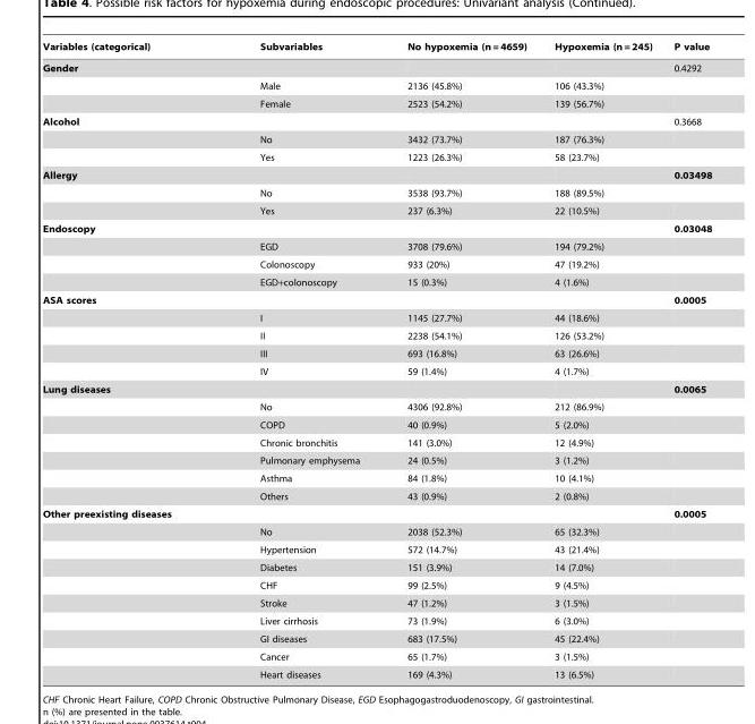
<table><thead><tr><td>Variables (categorical)</td><td>Subvariables</td><td>No hypoxemia (n = 4659)</td><td>Hypoxemia (n = 245)</td><td>P value</td></tr></thead><tbody><tr><td rowspan="3">Gender</td><td></td><td></td><td></td><td>0.4292</td></tr><tr><td>Male</td><td>2136 (45.8%)</td><td>106 (43.3%)</td><td></td></tr><tr><td>Female</td><td>2523 (54.2%)</td><td>139 (56.7%)</td><td></td></tr><tr><td rowspan="3">Alcohol</td><td></td><td></td><td></td><td>0.3668</td></tr><tr><td>No</td><td>3432 (73.7%)</td><td>187 (76.3%)</td><td></td></tr><tr><td>Yes</td><td>1223 (26.3%)</td><td>58 (23.7%)</td><td></td></tr><tr><td rowspan="3">Allergy</td><td></td><td></td><td></td><td>0.03498</td></tr><tr><td>No</td><td>3538 (93.7%)</td><td>188 (89.5%)</td><td></td></tr><tr><td>Yes</td><td>237 (6.3%)</td><td>22 (10.5%)</td><td></td></tr><tr><td rowspan="4">Endoscopy</td><td></td><td></td><td></td><td>0.03048</td></tr><tr><td>EGD</td><td>3708 (79.6%)</td><td>194 (79.2%)</td><td></td></tr><tr><td>Colonoscopy</td><td>933 (20%)</td><td>47 (19.2%)</td><td></td></tr><tr><td>EGD+colonoscopy</td><td>15 (0.3%)</td><td>4 (1.6%)</td><td></td></tr><tr><td rowspan="5">ASA scores</td><td></td><td></td><td></td><td>0.0005</td></tr><tr><td>I</td><td>1145 (27.7%)</td><td>44 (18.6%)</td><td></td></tr><tr><td>II</td><td>2238 (54.1%)</td><td>126 (53.2%)</td><td></td></tr><tr><td>III</td><td>693 (16.8%)</td><td>63 (26.6%)</td><td></td></tr><tr><td>IV</td><td>59 (1.4%)</td><td>4 (1.7%)</td><td></td></tr><tr><td rowspan="7">Lung diseases</td><td></td><td></td><td></td><td>0.0065</td></tr><tr><td>No</td><td>4306 (92.8%)</td><td>212 (86.9%)</td><td></td></tr><tr><td>COPD</td><td>40 (0.9%)</td><td>5 (2.0%)</td><td></td></tr><tr><td>Chronic bronchitis</td><td>141 (3.0%)</td><td>12 (4.9%)</td><td></td></tr><tr><td>Pulmonary emphysema</td><td>24 (0.5%)</td><td>3 (1.2%)</td><td></td></tr><tr><td>Asthma</td><td>84 (1.8%)</td><td>10 (4.1%)</td><td></td></tr><tr><td>Others</td><td>43 (0.9%)</td><td>2 (0.8%)</td><td></td></tr><tr><td rowspan="10">Other preexisting diseases</td><td></td><td></td><td></td><td>0.0005</td></tr><tr><td>No</td><td>2038 (52.3%)</td><td>65 (32.3%)</td><td></td></tr><tr><td>Hypertension</td><td>572 (14.7%)</td><td>43 (21.4%)</td><td></td></tr><tr><td>Diabetes</td><td>151 (3.9%)</td><td>14 (7.0%)</td><td></td></tr><tr><td>CHF</td><td>99 (2.5%)</td><td>9 (4.5%)</td><td></td></tr><tr><td>Stroke</td><td>47 (1.2%)</td><td>3 (1.5%)</td><td></td></tr><tr><td>Liver cirrhosis</td><td>73 (1.9%)</td><td>6 (3.0%)</td><td></td></tr><tr><td>GI diseases</td><td>683 (17.5%)</td><td>45 (22.4%)</td><td></td></tr><tr><td>Cancer</td><td>65 (1.7%)</td><td>3 (1.5%)</td><td></td></tr><tr><td>Heart diseases</td><td>169 (4.3%)</td><td>13 (6.5%)</td><td></td></tr></tbody></table>